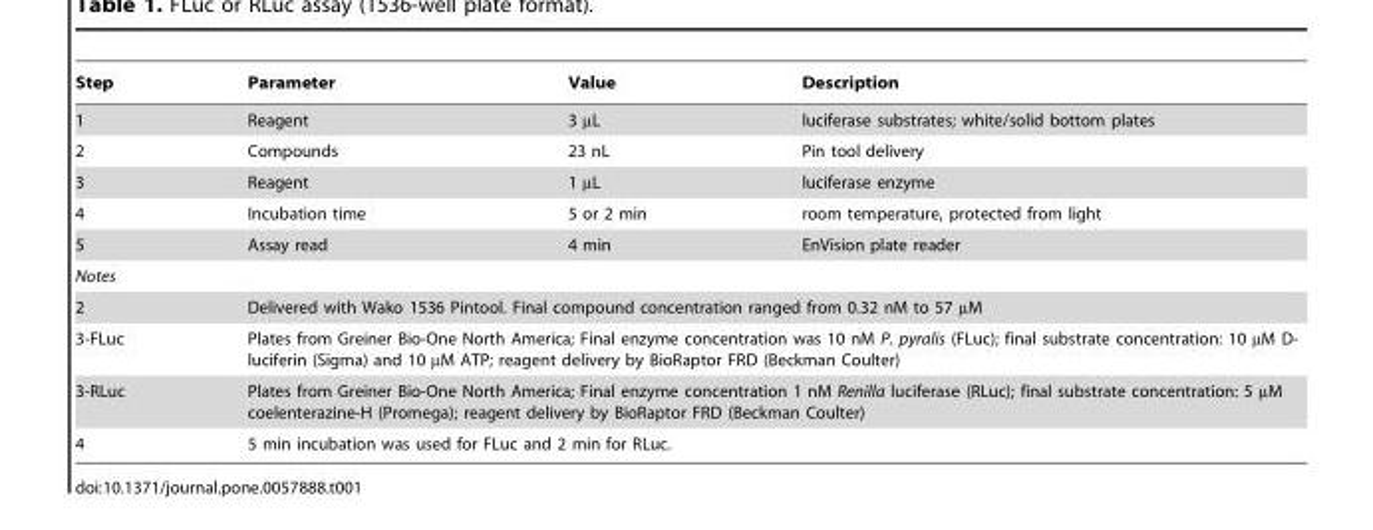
<table><thead><tr><td>Step</td><td>Parameter</td><td>Value</td><td>Description</td></tr></thead><tbody><tr><td>1</td><td>Reagent</td><td>3 µL</td><td>luciferase substrates; white/solid bottom plates</td></tr><tr><td>2</td><td>Compounds</td><td>23 nL</td><td>Pin tool delivery</td></tr><tr><td>3</td><td>Reagent</td><td>1 µL</td><td>luciferase enzyme</td></tr><tr><td>4</td><td>Incubation time</td><td>5 or 2 min</td><td>room temperature, protected from light</td></tr><tr><td>5</td><td>Assay read</td><td>4 min</td><td>EnVision plate reader</td></tr><tr><td colspan="4">Notes</td></tr><tr><td>2</td><td colspan="3">Delivered with Wako 1536 Pintool. Final compound concentration ranged from 0.32 nM to 57 µM</td></tr><tr><td>3-FLuc</td><td colspan="3">Plates from Greiner Bio-One North America; Final enzyme concentration was 10 nM P. pyralis (FLuc); final substrate concentration: 10 µM D- luciferin (Sigma) and 10 µM ATP; reagent delivery by BioRaptor FRD (Beckman Coulter)</td></tr><tr><td>3-RLuc</td><td colspan="3">Plates from Greiner Bio-One North America; Final enzyme concentration 1 nM Renilla luciferase (RLuc); final substrate concentration: 5 µM coelenterazine-H (Promega); reagent delivery by BioRaptor FRD (Beckman Coulter)</td></tr><tr><td>4</td><td colspan="3">5 min incubation was used for FLuc and 2 min for RLuc.</td></tr></tbody></table>